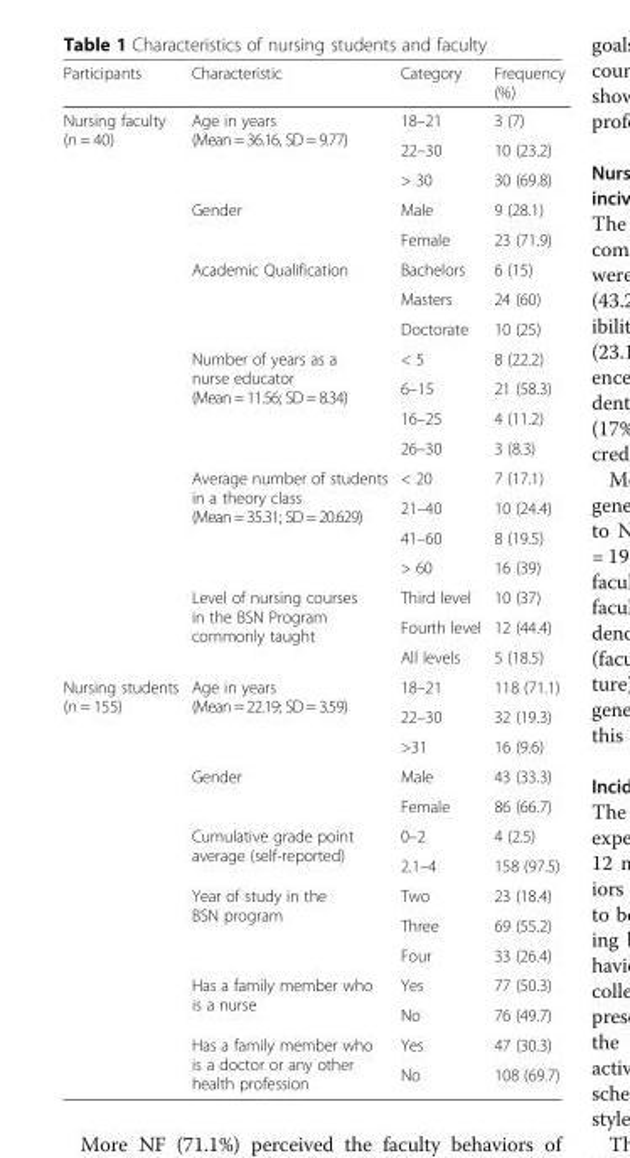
<table><thead><tr><td>Participants</td><td>Characteristic</td><td>Category</td><td>Frequency (%)</td></tr></thead><tbody><tr><td rowspan="19">Nursing faculty (n = 40)</td><td rowspan="3">Age in years (Mean = 36.16, SD = 9.77)</td><td>18–21</td><td>3 (7)</td></tr><tr><td>22–30</td><td>10 (23.2)</td></tr><tr><td>&gt; 30</td><td>30 (69.8)</td></tr><tr><td rowspan="2">Gender</td><td>Male</td><td>9 (28.1)</td></tr><tr><td>Female</td><td>23 (71.9)</td></tr><tr><td rowspan="3">Academic Qualification</td><td>Bachelors</td><td>6 (15)</td></tr><tr><td>Masters</td><td>24 (60)</td></tr><tr><td>Doctorate</td><td>10 (25)</td></tr><tr><td rowspan="4">Number of years as a nurse educator (Mean = 11.56; SD = 8.34)</td><td>&lt; 5</td><td>8 (22.2)</td></tr><tr><td>6–15</td><td>21 (58.3)</td></tr><tr><td>16–25</td><td>4 (11.2)</td></tr><tr><td>26–30</td><td>3 (8.3)</td></tr><tr><td rowspan="4">Average number of students in a theory class (Mean = 35.31; SD = 20.629)</td><td>&lt; 20</td><td>7 (17.1)</td></tr><tr><td>21–40</td><td>10 (24.4)</td></tr><tr><td>41–60</td><td>8 (19.5)</td></tr><tr><td>&gt; 60</td><td>16 (39)</td></tr><tr><td rowspan="3">Level of nursing courses in the BSN Program commonly taught</td><td>Third level</td><td>10 (37)</td></tr><tr><td>Fourth level</td><td>12 (44.4)</td></tr><tr><td>All levels</td><td>5 (18.5)</td></tr><tr><td rowspan="14">Nursing students (n = 155)</td><td rowspan="3">Age in years (Mean = 22.19; SD = 3.59)</td><td>18–21</td><td>118 (71.1)</td></tr><tr><td>22–30</td><td>32 (19.3)</td></tr><tr><td>&gt;31</td><td>16 (9.6)</td></tr><tr><td rowspan="2">Gender</td><td>Male</td><td>43 (33.3)</td></tr><tr><td>Female</td><td>86 (66.7)</td></tr><tr><td rowspan="2">Cumulative grade point average (self-reported)</td><td>0–2</td><td>4 (2.5)</td></tr><tr><td>2.1–4</td><td>158 (97.5)</td></tr><tr><td rowspan="3">Year of study in the BSN program</td><td>Two</td><td>23 (18.4)</td></tr><tr><td>Three</td><td>69 (55.2)</td></tr><tr><td>Four</td><td>33 (26.4)</td></tr><tr><td rowspan="2">Has a family member who is a nurse</td><td>Yes</td><td>77 (50.3)</td></tr><tr><td>No</td><td>76 (49.7)</td></tr><tr><td rowspan="2">Has a family member who is a doctor or any other health profession</td><td>Yes</td><td>47 (30.3)</td></tr><tr><td>No</td><td>108 (69.7)</td></tr></tbody></table>